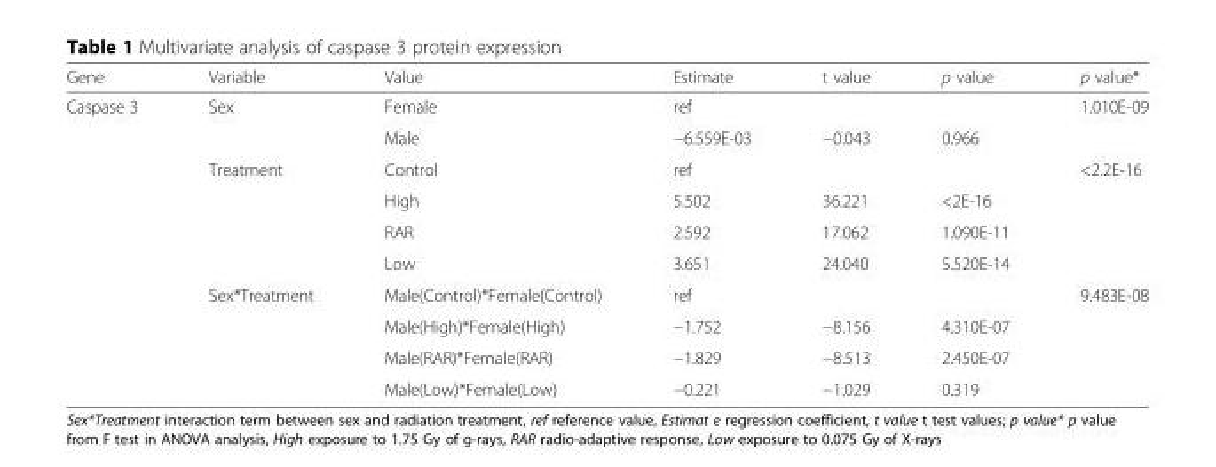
<table><thead><tr><td>Gene</td><td>Variable</td><td>Value</td><td>Estimate</td><td>t value</td><td>p value</td><td>p value*</td></tr></thead><tbody><tr><td rowspan="10">Caspase 3</td><td rowspan="2">Sex</td><td>Female</td><td>ref</td><td></td><td></td><td>1.010E-09</td></tr><tr><td>Male</td><td>−6.559E-03</td><td>−0.043</td><td>0.966</td><td></td></tr><tr><td rowspan="4">Treatment</td><td>Control</td><td>ref</td><td></td><td></td><td>&lt;2.2E-16</td></tr><tr><td>High</td><td>5.502</td><td>36.221</td><td>&lt;2E-16</td><td></td></tr><tr><td>RAR</td><td>2.592</td><td>17.062</td><td>1.090E-11</td><td></td></tr><tr><td>Low</td><td>3.651</td><td>24.040</td><td>5.520E-14</td><td></td></tr><tr><td rowspan="4">Sex*Treatment</td><td>Male(Control)*Female(Control)</td><td>ref</td><td></td><td></td><td>9.483E-08</td></tr><tr><td>Male(High)*Female(High)</td><td>−1.752</td><td>−8.156</td><td>4.310E-07</td><td></td></tr><tr><td>Male(RAR)*Female(RAR)</td><td>−1.829</td><td>−8.513</td><td>2.450E-07</td><td></td></tr><tr><td>Male(Low)*Female(Low)</td><td>−0.221</td><td>−1.029</td><td>0.319</td><td></td></tr></tbody></table>